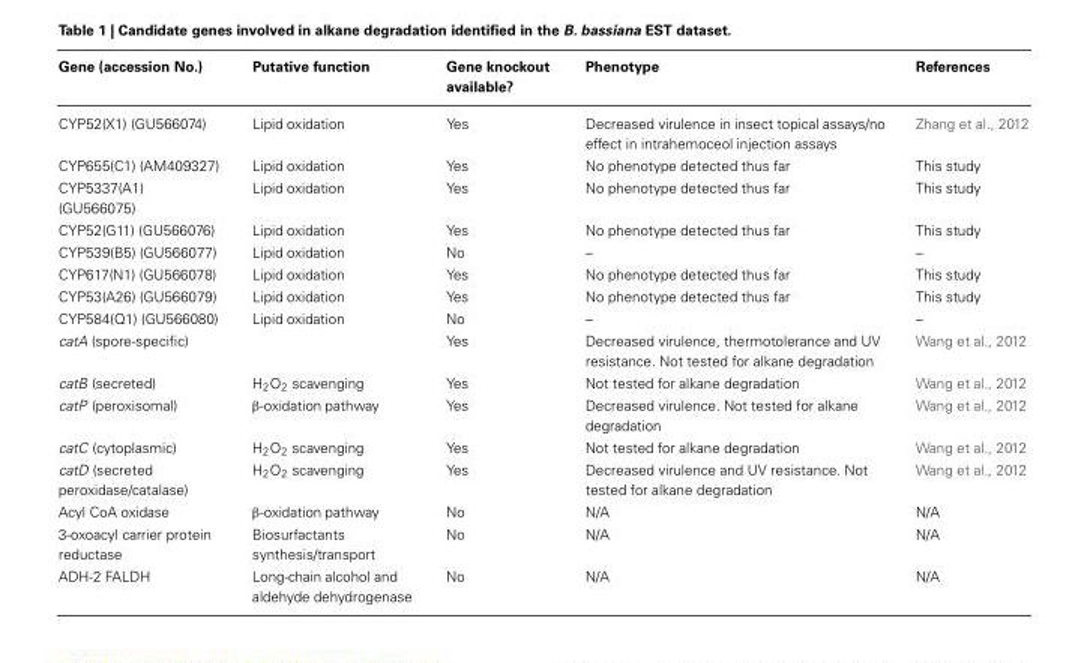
<table><thead><tr><td>Gene (accession No.)</td><td>Putative function</td><td>Gene knockout available?</td><td>Phenotype</td><td>References</td></tr></thead><tbody><tr><td>CYP52(X1) (GU566074)</td><td>Lipid oxidation</td><td>Yes</td><td>Decreased virulence in insect topical assays/no effect in intrahemoceol injection assays</td><td>Zhang et al., 2012</td></tr><tr><td>CYP655(C1) (AM409327)</td><td>Lipid oxidation</td><td>Yes</td><td>No phenotype detected thus far</td><td>This study</td></tr><tr><td>CYP5337(A1) (GU566075)</td><td>Lipid oxidation</td><td>Yes</td><td>No phenotype detected thus far</td><td>This study</td></tr><tr><td>CYP52(G11) (GU566076)</td><td>Lipid oxidation</td><td>Yes</td><td>No phenotype detected thus far</td><td>This study</td></tr><tr><td>CYP539(B5) (GU566077)</td><td>Lipid oxidation</td><td>No</td><td>–</td><td>–</td></tr><tr><td>CYP617(N1) (GU566078)</td><td>Lipid oxidation</td><td>Yes</td><td>No phenotype detected thus far</td><td>This study</td></tr><tr><td>CYP53(A26) (GU566079)</td><td>Lipid oxidation</td><td>Yes</td><td>No phenotype detected thus far</td><td>This study</td></tr><tr><td>CYP584(Q1) (GU566080)</td><td>Lipid oxidation</td><td>No</td><td>–</td><td>–</td></tr><tr><td>catA (spore-specific)</td><td></td><td>Yes</td><td>Decreased virulence, thermotolerance and UV resistance. Not tested for alkane degradation</td><td>Wang et al., 2012</td></tr><tr><td>catB (secreted)</td><td>H<sub>2</sub>O<sub>2</sub> scavenging</td><td>Yes</td><td>Not tested for alkane degradation</td><td>Wang et al., 2012</td></tr><tr><td>catP (peroxisomal)</td><td>β-oxidation pathway</td><td>Yes</td><td>Decreased virulence. Not tested for alkane degradation</td><td>Wang et al., 2012</td></tr><tr><td>catC (cytoplasmic)</td><td>H<sub>2</sub>O<sub>2</sub> scavenging</td><td>Yes</td><td>Not tested for alkane degradation</td><td>Wang et al., 2012</td></tr><tr><td>catD (secreted peroxidase/catalase)</td><td>H<sub>2</sub>O<sub>2</sub> scavenging</td><td>Yes</td><td>Decreased virulence and UV resistance. Not tested for alkane degradation</td><td>Wang et al., 2012</td></tr><tr><td>Acyl CoA oxidase</td><td>β-oxidation pathway</td><td>No</td><td>N/A</td><td>N/A</td></tr><tr><td>3-oxoacyl carrier protein reductase</td><td>Biosurfactants synthesis/transport</td><td>No</td><td>N/A</td><td>N/A</td></tr><tr><td>ADH-2 FALDH</td><td>Long-chain alcohol and aldehyde dehydrogenase</td><td>No</td><td>N/A</td><td>N/A</td></tr></tbody></table>